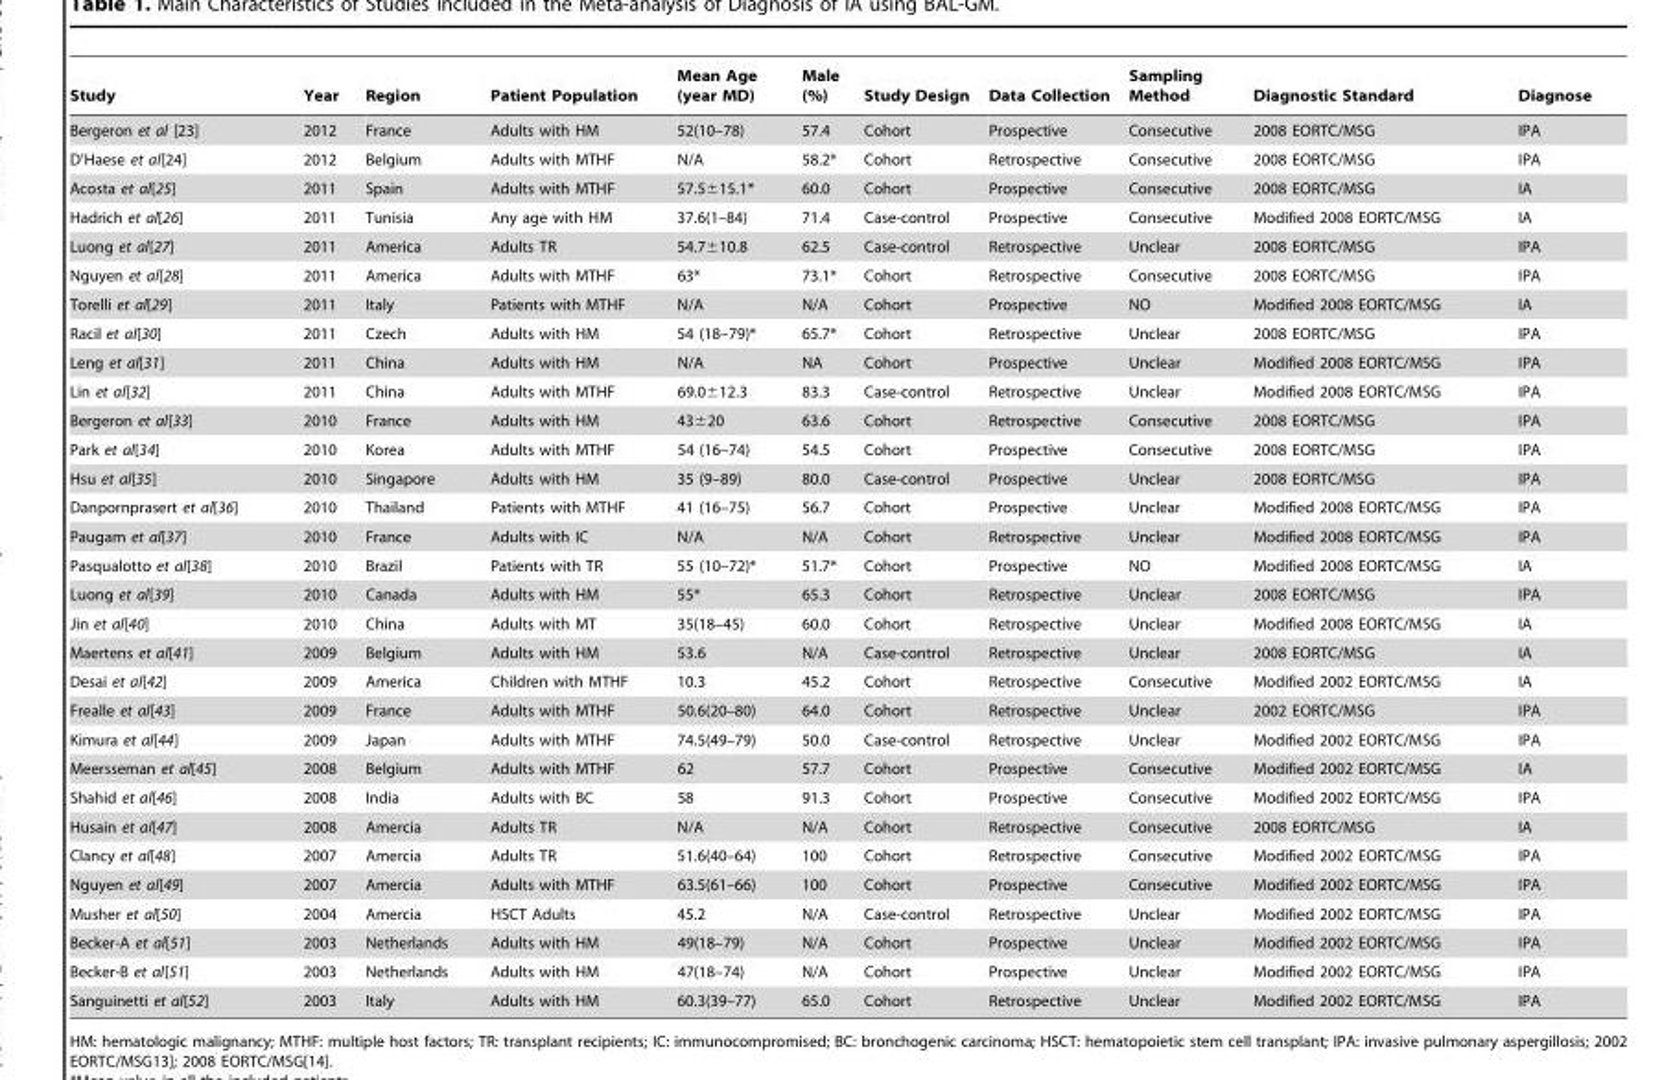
<table><thead><tr><td>Study</td><td>Year</td><td>Region</td><td>Patient Population</td><td>Mean Age (year MD)</td><td>Male (%)</td><td>Study Design</td><td>Data Collection</td><td>Sampling Method</td><td>Diagnostic Standard</td><td>Diagnose</td></tr></thead><tbody><tr><td>Bergeron et al [23]</td><td>2012</td><td>France</td><td>Adults with HM</td><td>52(10–78)</td><td>57.4</td><td>Cohort</td><td>Prospective</td><td>Consecutive</td><td>2008 EORTC/MSG</td><td>IPA</td></tr><tr><td>D’Haese et al[24]</td><td>2012</td><td>Belgium</td><td>Adults with MTHF</td><td>N/A</td><td>58.2*</td><td>Cohort</td><td>Retrospective</td><td>Consecutive</td><td>2008 EORTC/MSG</td><td>IPA</td></tr><tr><td>Acosta et al[25]</td><td>2011</td><td>Spain</td><td>Adults with MTHF</td><td>57.5±15.1*</td><td>60.0</td><td>Cohort</td><td>Prospective</td><td>Consecutive</td><td>2008 EORTC/MSG</td><td>IA</td></tr><tr><td>Hadrich et al[26]</td><td>2011</td><td>Tunisia</td><td>Any age with HM</td><td>37.6(1–84)</td><td>71.4</td><td>Case-control</td><td>Prospective</td><td>Consecutive</td><td>Modified 2008 EORTC/MSG</td><td>IA</td></tr><tr><td>Luong et al[27]</td><td>2011</td><td>America</td><td>Adults TR</td><td>54.7±10.8</td><td>62.5</td><td>Case-control</td><td>Retrospective</td><td>Unclear</td><td>2008 EORTC/MSG</td><td>IPA</td></tr><tr><td>Nguyen et al[28]</td><td>2011</td><td>America</td><td>Adults with MTHF</td><td>63*</td><td>73.1*</td><td>Cohort</td><td>Retrospective</td><td>Consecutive</td><td>2008 EORTC/MSG</td><td>IPA</td></tr><tr><td>Torelli et al[29]</td><td>2011</td><td>Italy</td><td>Patients with MTHF</td><td>N/A</td><td>N/A</td><td>Cohort</td><td>Prospective</td><td>NO</td><td>Modified 2008 EORTC/MSG</td><td>IA</td></tr><tr><td>Racil et al[30]</td><td>2011</td><td>Czech</td><td>Adults with HM</td><td>54 (18–79)*</td><td>65.7*</td><td>Cohort</td><td>Retrospective</td><td>Unclear</td><td>2008 EORTC/MSG</td><td>IPA</td></tr><tr><td>Leng et al[31]</td><td>2011</td><td>China</td><td>Adults with HM</td><td>N/A</td><td>NA</td><td>Cohort</td><td>Prospective</td><td>Unclear</td><td>Modified 2008 EORTC/MSG</td><td>IPA</td></tr><tr><td>Lin et al[32]</td><td>2011</td><td>China</td><td>Adults with MTHF</td><td>69.0±12.3</td><td>83.3</td><td>Case-control</td><td>Retrospective</td><td>Unclear</td><td>Modified 2008 EORTC/MSG</td><td>IPA</td></tr><tr><td>Bergeron et al[33]</td><td>2010</td><td>France</td><td>Adults with HM</td><td>43±20</td><td>63.6</td><td>Cohort</td><td>Retrospective</td><td>Consecutive</td><td>2008 EORTC/MSG</td><td>IPA</td></tr><tr><td>Park et al[34]</td><td>2010</td><td>Korea</td><td>Adults with MTHF</td><td>54 (16–74)</td><td>54.5</td><td>Cohort</td><td>Prospective</td><td>Consecutive</td><td>2008 EORTC/MSG</td><td>IPA</td></tr><tr><td>Hsu et al[35]</td><td>2010</td><td>Singapore</td><td>Adults with HM</td><td>35 (9–89)</td><td>80.0</td><td>Case-control</td><td>Prospective</td><td>Unclear</td><td>2008 EORTC/MSG</td><td>IPA</td></tr><tr><td>Danpornprasert et al[36]</td><td>2010</td><td>Thailand</td><td>Patients with MTHF</td><td>41 (16–75)</td><td>56.7</td><td>Cohort</td><td>Prospective</td><td>Unclear</td><td>Modified 2008 EORTC/MSG</td><td>IPA</td></tr><tr><td>Paugam et al[37]</td><td>2010</td><td>France</td><td>Adults with IC</td><td>N/A</td><td>N/A</td><td>Cohort</td><td>Retrospective</td><td>Unclear</td><td>Modified 2008 EORTC/MSG</td><td>IPA</td></tr><tr><td>Pasqualotto et al[38]</td><td>2010</td><td>Brazil</td><td>Patients with TR</td><td>55 (10–72)*</td><td>51.7*</td><td>Cohort</td><td>Prospective</td><td>NO</td><td>Modified 2008 EORTC/MSG</td><td>IA</td></tr><tr><td>Luong et al[39]</td><td>2010</td><td>Canada</td><td>Adults with HM</td><td>55*</td><td>65.3</td><td>Cohort</td><td>Retrospective</td><td>Unclear</td><td>2008 EORTC/MSG</td><td>IPA</td></tr><tr><td>Jin et al[40]</td><td>2010</td><td>China</td><td>Adults with MT</td><td>35(18–45)</td><td>60.0</td><td>Cohort</td><td>Retrospective</td><td>Unclear</td><td>Modified 2008 EORTC/MSG</td><td>IA</td></tr><tr><td>Maertens et al[41]</td><td>2009</td><td>Belgium</td><td>Adults with HM</td><td>53.6</td><td>N/A</td><td>Case-control</td><td>Retrospective</td><td>Unclear</td><td>2008 EORTC/MSG</td><td>IA</td></tr><tr><td>Desai et al[42]</td><td>2009</td><td>America</td><td>Children with MTHF</td><td>10.3</td><td>45.2</td><td>Cohort</td><td>Retrospective</td><td>Consecutive</td><td>Modified 2002 EORTC/MSG</td><td>IA</td></tr><tr><td>Frealle et al[43]</td><td>2009</td><td>France</td><td>Adults with MTHF</td><td>50.6(20–80)</td><td>64.0</td><td>Cohort</td><td>Retrospective</td><td>Unclear</td><td>2002 EORTC/MSG</td><td>IPA</td></tr><tr><td>Kimura et al[44]</td><td>2009</td><td>Japan</td><td>Adults with MTHF</td><td>74.5(49–79)</td><td>50.0</td><td>Case-control</td><td>Retrospective</td><td>Unclear</td><td>Modified 2002 EORTC/MSG</td><td>IPA</td></tr><tr><td>Meersseman et al[45]</td><td>2008</td><td>Belgium</td><td>Adults with MTHF</td><td>62</td><td>57.7</td><td>Cohort</td><td>Prospective</td><td>Consecutive</td><td>Modified 2002 EORTC/MSG</td><td>IA</td></tr><tr><td>Shahid et al[46]</td><td>2008</td><td>India</td><td>Adults with BC</td><td>58</td><td>91.3</td><td>Cohort</td><td>Prospective</td><td>Consecutive</td><td>Modified 2002 EORTC/MSG</td><td>IPA</td></tr><tr><td>Husain et al[47]</td><td>2008</td><td>Amercia</td><td>Adults TR</td><td>N/A</td><td>N/A</td><td>Cohort</td><td>Retrospective</td><td>Consecutive</td><td>2008 EORTC/MSG</td><td>IA</td></tr><tr><td>Clancy et al[48]</td><td>2007</td><td>Amercia</td><td>Adults TR</td><td>51.6(40–64)</td><td>100</td><td>Cohort</td><td>Retrospective</td><td>Consecutive</td><td>Modified 2002 EORTC/MSG</td><td>IPA</td></tr><tr><td>Nguyen et al[49]</td><td>2007</td><td>Amercia</td><td>Adults with MTHF</td><td>63.5(61–66)</td><td>100</td><td>Cohort</td><td>Prospective</td><td>Consecutive</td><td>Modified 2002 EORTC/MSG</td><td>IPA</td></tr><tr><td>Musher et al[50]</td><td>2004</td><td>Amercia</td><td>HSCT Adults</td><td>45.2</td><td>N/A</td><td>Case-control</td><td>Retrospective</td><td>Unclear</td><td>Modified 2002 EORTC/MSG</td><td>IPA</td></tr><tr><td>Becker-A et al[51]</td><td>2003</td><td>Netherlands</td><td>Adults with HM</td><td>49(18–79)</td><td>N/A</td><td>Cohort</td><td>Prospective</td><td>Unclear</td><td>Modified 2002 EORTC/MSG</td><td>IPA</td></tr><tr><td>Becker-B et al[51]</td><td>2003</td><td>Netherlands</td><td>Adults with HM</td><td>47(18–74)</td><td>N/A</td><td>Cohort</td><td>Prospective</td><td>Unclear</td><td>Modified 2002 EORTC/MSG</td><td>IPA</td></tr><tr><td>Sanguinetti et al[52]</td><td>2003</td><td>Italy</td><td>Adults with HM</td><td>60.3(39–77)</td><td>65.0</td><td>Cohort</td><td>Retrospective</td><td>Unclear</td><td>Modified 2002 EORTC/MSG</td><td>IPA</td></tr></tbody></table>